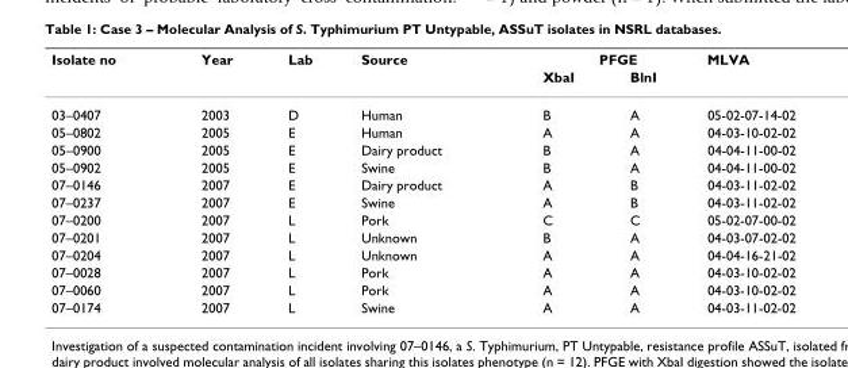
<table><thead><tr><td rowspan="2">Isolate no</td><td rowspan="2">Year</td><td rowspan="2">Lab</td><td rowspan="2">Source</td><td colspan="2">PFGE</td><td rowspan="2">MLVA</td></tr><tr><td>XbaI</td><td>BlnI</td></tr></thead><tbody><tr><td>03–0407</td><td>2003</td><td>D</td><td>Human</td><td>B</td><td>A</td><td>05-02-07-14-02</td></tr><tr><td>05–0802</td><td>2005</td><td>E</td><td>Human</td><td>A</td><td>A</td><td>04-03-10-02-02</td></tr><tr><td>05–0900</td><td>2005</td><td>E</td><td>Dairy product</td><td>B</td><td>A</td><td>04-04-11-00-02</td></tr><tr><td>05–0902</td><td>2005</td><td>E</td><td>Swine</td><td>B</td><td>A</td><td>04-04-11-00-02</td></tr><tr><td>07–0146</td><td>2007</td><td>E</td><td>Dairy product</td><td>A</td><td>B</td><td>04-03-11-02-02</td></tr><tr><td>07–0237</td><td>2007</td><td>E</td><td>Swine</td><td>A</td><td>B</td><td>04-03-11-02-02</td></tr><tr><td>07–0200</td><td>2007</td><td>L</td><td>Pork</td><td>C</td><td>C</td><td>05-02-07-00-02</td></tr><tr><td>07–0201</td><td>2007</td><td>L</td><td>Unknown</td><td>B</td><td>A</td><td>04-03-07-02-02</td></tr><tr><td>07–0204</td><td>2007</td><td>L</td><td>Unknown</td><td>A</td><td>A</td><td>04-04-16-21-02</td></tr><tr><td>07–0028</td><td>2007</td><td>L</td><td>Pork</td><td>A</td><td>A</td><td>04-03-10-02-02</td></tr><tr><td>07–0060</td><td>2007</td><td>L</td><td>Pork</td><td>A</td><td>A</td><td>04-03-10-02-02</td></tr><tr><td>07–0174</td><td>2007</td><td>L</td><td>Swine</td><td>A</td><td>A</td><td>04-03-11-02-02</td></tr></tbody></table>